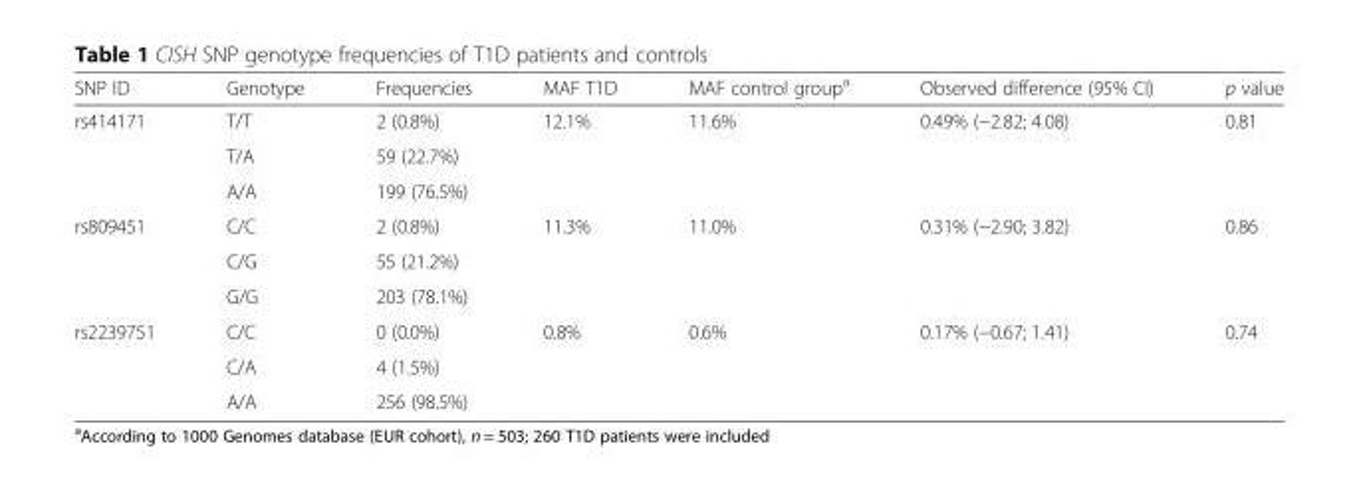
<table><thead><tr><td>SNP ID</td><td>Genotype</td><td>Frequencies</td><td>MAF T1D</td><td>MAF control group<sup>a</sup></td><td>Observed difference (95% CI)</td><td>p value</td></tr></thead><tbody><tr><td rowspan="3">rs414171</td><td>T/T</td><td>2 (0.8%)</td><td rowspan="3">12.1%</td><td rowspan="3">11.6%</td><td rowspan="3">0.49% (−2.82; 4.08)</td><td rowspan="3">0.81</td></tr><tr><td>T/A</td><td>59 (22.7%)</td></tr><tr><td>A/A</td><td>199 (76.5%)</td></tr><tr><td rowspan="3">rs809451</td><td>C/C</td><td>2 (0.8%)</td><td rowspan="3">11.3%</td><td rowspan="3">11.0%</td><td rowspan="3">0.31% (−2.90; 3.82)</td><td rowspan="3">0.86</td></tr><tr><td>C/G</td><td>55 (21.2%)</td></tr><tr><td>G/G</td><td>203 (78.1%)</td></tr><tr><td rowspan="3">rs2239751</td><td>C/C</td><td>0 (0.0%)</td><td rowspan="3">0.8%</td><td rowspan="3">0.6%</td><td rowspan="3">0.17% (−0.67; 1.41)</td><td rowspan="3">0.74</td></tr><tr><td>C/A</td><td>4 (1.5%)</td></tr><tr><td>A/A</td><td>256 (98.5%)</td></tr></tbody></table>